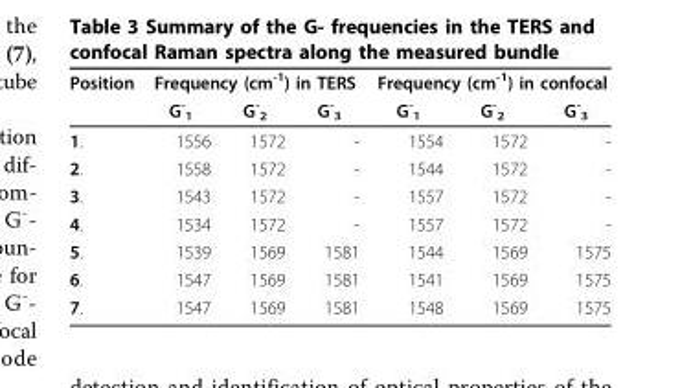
<table><thead><tr><td rowspan="2">Position</td><td colspan="3">Frequency (cm<sup>-1</sup>) in TERS</td><td colspan="3">Frequency (cm<sup>-1</sup>) in confocal</td></tr><tr><td>G<sup>-</sup> <sub>1</sub></td><td>G<sup>-</sup> <sub>2</sub></td><td>G<sup>-</sup> <sub>3</sub></td><td>G<sup>-</sup> <sub>1</sub></td><td>G<sup>-</sup> <sub>2</sub></td><td>G<sup>-</sup> <sub>3</sub></td></tr></thead><tbody><tr><td>1.</td><td>1556</td><td>1572</td><td>-</td><td>1554</td><td>1572</td><td>-</td></tr><tr><td>2.</td><td>1558</td><td>1572</td><td>-</td><td>1544</td><td>1572</td><td>-</td></tr><tr><td>3.</td><td>1543</td><td>1572</td><td>-</td><td>1557</td><td>1572</td><td>-</td></tr><tr><td>4.</td><td>1534</td><td>1572</td><td>-</td><td>1557</td><td>1572</td><td>-</td></tr><tr><td>5.</td><td>1539</td><td>1569</td><td>1581</td><td>1544</td><td>1569</td><td>1575</td></tr><tr><td>6.</td><td>1547</td><td>1569</td><td>1581</td><td>1541</td><td>1569</td><td>1575</td></tr><tr><td>7.</td><td>1547</td><td>1569</td><td>1581</td><td>1548</td><td>1569</td><td>1575</td></tr></tbody></table>